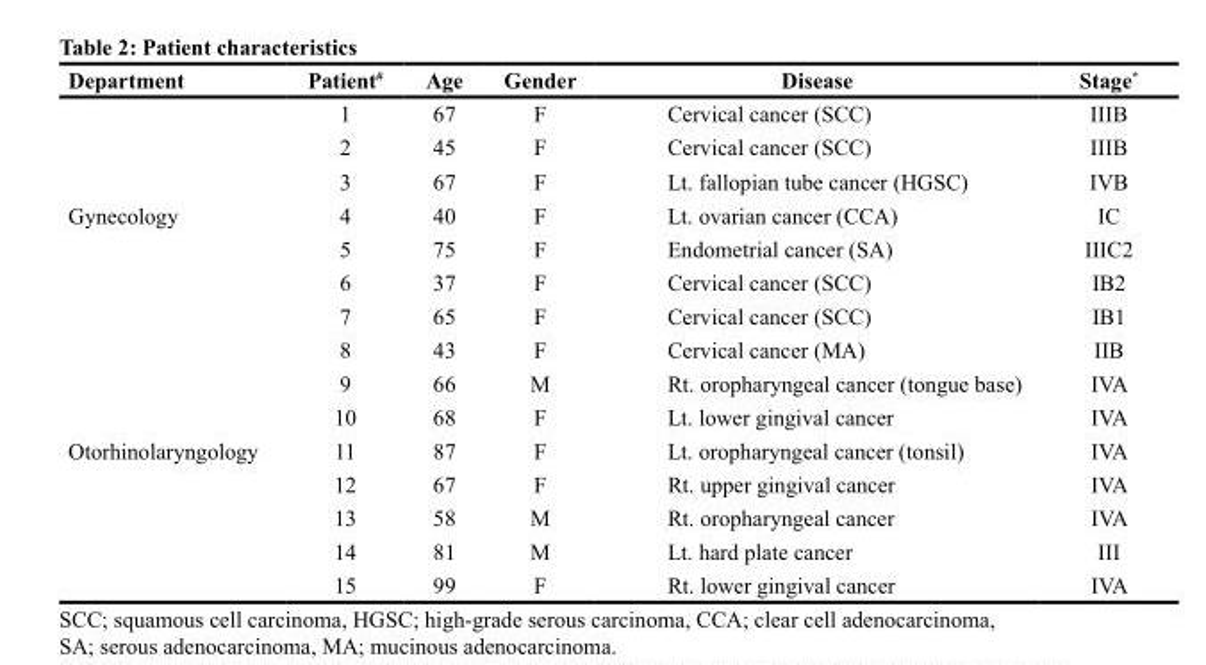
<table><thead><tr><td>Department</td><td>Patient<sup>#</sup></td><td>Age</td><td>Gender</td><td>Disease</td><td>Stage*</td></tr></thead><tbody><tr><td></td><td>1</td><td>67</td><td>F</td><td>Cervical cancer (SCC)</td><td>IIIB</td></tr><tr><td></td><td>2</td><td>45</td><td>F</td><td>Cervical cancer (SCC)</td><td>IIIB</td></tr><tr><td></td><td>3</td><td>67</td><td>F</td><td>Lt. fallopian tube cancer (HGSC)</td><td>IVB</td></tr><tr><td rowspan="7">Gynecology</td><td>4</td><td>40</td><td>F</td><td>Lt. ovarian cancer (CCA)</td><td>IC</td></tr><tr><td>5</td><td>75</td><td>F</td><td>Endometrial cancer (SA)</td><td>IIIC2</td></tr><tr><td>6</td><td>37</td><td>F</td><td>Cervical cancer (SCC)</td><td>IB2</td></tr><tr><td>7</td><td>65</td><td>F</td><td>Cervical cancer (SCC)</td><td>IB1</td></tr><tr><td>8</td><td>43</td><td>F</td><td>Cervical cancer (MA)</td><td>IIB</td></tr><tr><td>9</td><td>66</td><td>M</td><td>Rt. oropharyngeal cancer (tongue base)</td><td>IVA</td></tr><tr><td>10</td><td>68</td><td>F</td><td>Lt. lower gingival cancer</td><td>IVA</td></tr><tr><td rowspan="5">Otorhinolaryngology</td><td>11</td><td>87</td><td>F</td><td>Lt. oropharyngeal cancer (tonsil)</td><td>IVA</td></tr><tr><td>12</td><td>67</td><td>F</td><td>Rt. upper gingival cancer</td><td>IVA</td></tr><tr><td>13</td><td>58</td><td>M</td><td>Rt. oropharyngeal cancer</td><td>IVA</td></tr><tr><td>14</td><td>81</td><td>M</td><td>Lt. hard plate cancer</td><td>III</td></tr><tr><td>15</td><td>99</td><td>F</td><td>Rt. lower gingival cancer</td><td>IVA</td></tr></tbody></table>